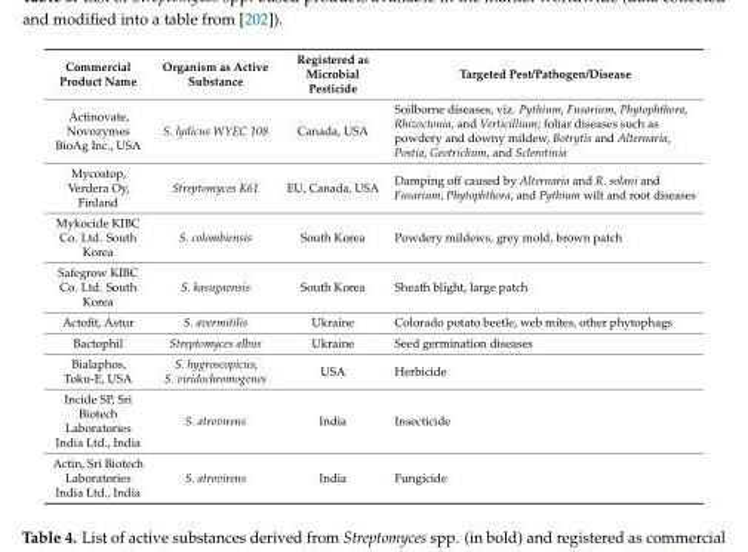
<table><thead><tr><td>Commercial Product Name</td><td>Organism as Active Substance</td><td>Registered as Microbial Pesticide</td><td>Targeted Pest/Pathogen/Disease</td></tr></thead><tbody><tr><td>Actinovate, Novozymes BioAg Inc., USA</td><td>S. lydicus WYEC 108</td><td>Canada, USA</td><td>Soilborne diseases, viz. Pythium, Fusarium, Phytophthora, Rhizoctonia, and Verticillium; foliar diseases such as powdery and downy mildew, Botrytis and Alternaria, Postia, Geotrichum, and Sclerotinia</td></tr><tr><td>Mycostop, Verdera Oy, Finland</td><td>Streptomyces K61</td><td>EU, Canada, USA</td><td>Damping off caused by Alternaria and R. solani and Fusarium, Phytophthora, and Pythium wilt and root diseases</td></tr><tr><td>Mykocide KIBC Co. Ltd. South Korea</td><td>S. colombiensis</td><td>South Korea</td><td>Powdery mildews, grey mold, brown patch</td></tr><tr><td>Safegrow KIBC Co. Ltd. South Korea</td><td>S. kasugaensis</td><td>South Korea</td><td>Sheath blight, large patch</td></tr><tr><td>Actofit, Astur</td><td>S. avermitilis</td><td>Ukraine</td><td>Colorado potato beetle, web mites, other phytophags</td></tr><tr><td>Bactophil</td><td>Streptomyces albus</td><td>Ukraine</td><td>Seed germination diseases</td></tr><tr><td>Bialaphos, Toku-E, USA</td><td>S. hygroscopicus, S. viridochromogenes</td><td>USA</td><td>Herbicide</td></tr><tr><td>Incide SP, Sri Biotech Laboratories India Ltd., India</td><td>S. atrovirens</td><td>India</td><td>Insecticide</td></tr><tr><td>Actin, Sri Biotech Laboratories India Ltd., India</td><td>S. atrovirens</td><td>India</td><td>Fungicide</td></tr></tbody></table>